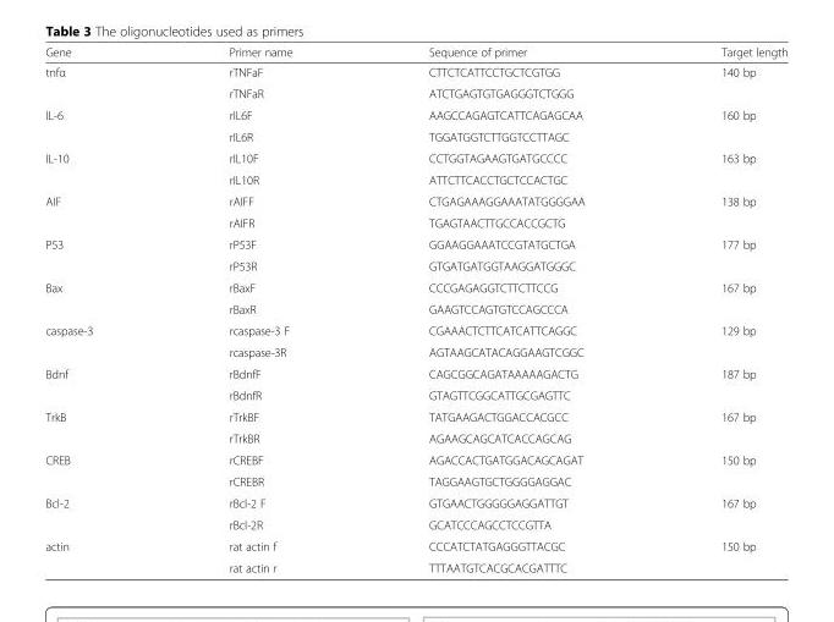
<table><thead><tr><td>Gene</td><td>Primer name</td><td>Sequence of primer</td><td>Target length</td></tr></thead><tbody><tr><td rowspan="2">tnfα</td><td>rTNFaF</td><td>CTTCTCATTCCTGCTCGTGG</td><td rowspan="2">140 bp</td></tr><tr><td>rTNFaR</td><td>ATCTGAGTGTGAGGGTCTGGG</td></tr><tr><td rowspan="2">IL-6</td><td>rIL6F</td><td>AAGCCAGAGTCATTCAGAGCAA</td><td rowspan="2">160 bp</td></tr><tr><td>rIL6R</td><td>TGGATGGTCTTGGTCCTTAGC</td></tr><tr><td rowspan="2">IL-10</td><td>rIL10F</td><td>CCTGGTAGAAGTGATGCCCC</td><td rowspan="2">163 bp</td></tr><tr><td>rIL10R</td><td>ATTCTTCACCTGCTCCACTGC</td></tr><tr><td rowspan="2">AIF</td><td>rAIFF</td><td>CTGAGAAAGGAAATATGGGGAA</td><td rowspan="2">138 bp</td></tr><tr><td>rAIFR</td><td>TGAGTAACTTGCCACCGCTG</td></tr><tr><td rowspan="2">P53</td><td>rP53F</td><td>GGAAGGAAATCCGTATGCTGA</td><td rowspan="2">177 bp</td></tr><tr><td>rP53R</td><td>GTGATGATGGTAAGGATGGGC</td></tr><tr><td rowspan="2">Bax</td><td>rBaxF</td><td>CCCGAGAGGTCTTCTTCCG</td><td rowspan="2">167 bp</td></tr><tr><td>rBaxR</td><td>GAAGTCCAGTGTCCAGCCCA</td></tr><tr><td rowspan="2">caspase-3</td><td>rcaspase-3 F</td><td>CGAAACTCTTCATCATTCAGGC</td><td rowspan="2">129 bp</td></tr><tr><td>rcaspase-3R</td><td>AGTAAGCATACAGGAAGTCGGC</td></tr><tr><td rowspan="2">Bdnf</td><td>rBdnfF</td><td>CAGCGGCAGATAAAAAGACTG</td><td rowspan="2">187 bp</td></tr><tr><td>rBdnfR</td><td>GTAGTTCGGCATTGCGAGTTC</td></tr><tr><td rowspan="2">TrkB</td><td>rTrkBF</td><td>TATGAAGACTGGACCACGCC</td><td rowspan="2">167 bp</td></tr><tr><td>rTrkBR</td><td>AGAAGCAGCATCACCAGCAG</td></tr><tr><td rowspan="2">CREB</td><td>rCREBF</td><td>AGACCACTGATGGACAGCAGAT</td><td rowspan="2">150 bp</td></tr><tr><td>rCREBR</td><td>TAGGAAGTGCTGGGGAGGAC</td></tr><tr><td rowspan="2">Bcl-2</td><td>rBcl-2 F</td><td>GTGAACTGGGGGAGGATTGT</td><td rowspan="2">167 bp</td></tr><tr><td>rBcl-2R</td><td>GCATCCCAGCCTCCGTTA</td></tr><tr><td rowspan="2">actin</td><td>rat actin f</td><td>CCCATCTATGAGGGTTACGC</td><td rowspan="2">150 bp</td></tr><tr><td>rat actin r</td><td>TTTAATGTCACGCACGATTTC</td></tr></tbody></table>